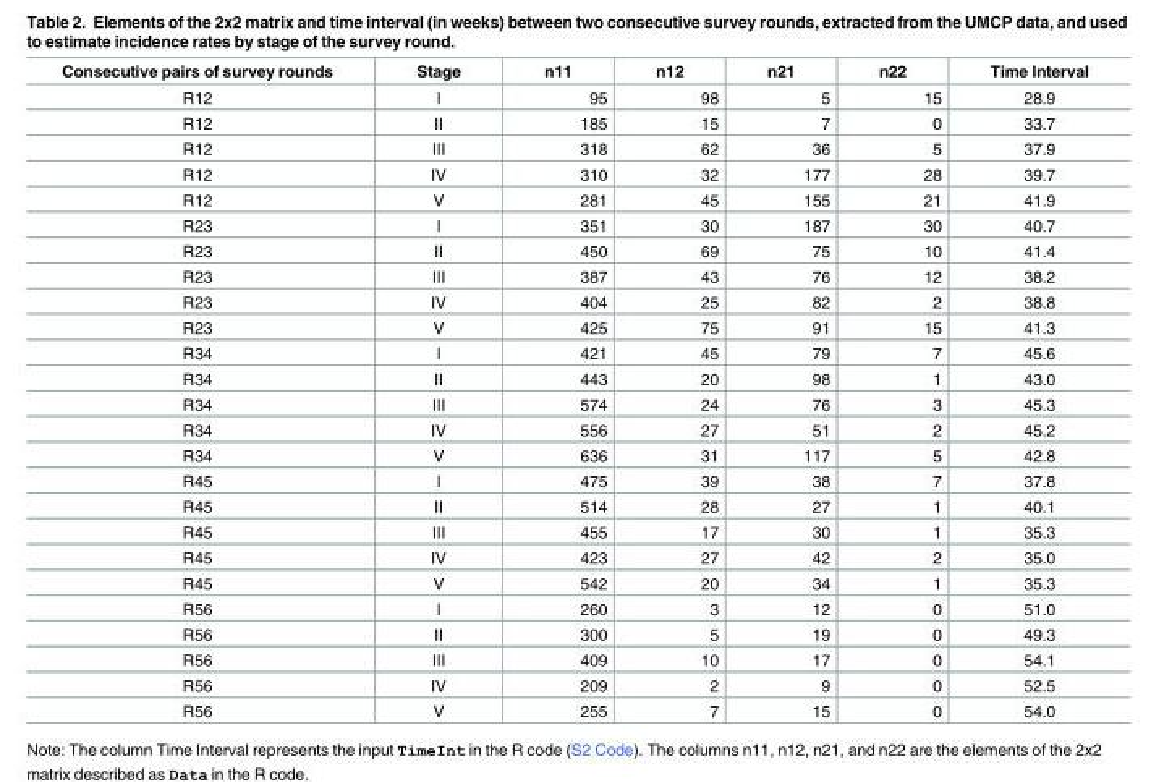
<table><thead><tr><td>Consecutive pairs of survey rounds</td><td>Stage</td><td>n11</td><td>n12</td><td>n21</td><td>n22</td><td>Time Interval</td></tr></thead><tbody><tr><td>R12</td><td>I</td><td>95</td><td>98</td><td>5</td><td>15</td><td>28.9</td></tr><tr><td>R12</td><td>II</td><td>185</td><td>15</td><td>7</td><td>0</td><td>33.7</td></tr><tr><td>R12</td><td>III</td><td>318</td><td>62</td><td>36</td><td>5</td><td>37.9</td></tr><tr><td>R12</td><td>IV</td><td>310</td><td>32</td><td>177</td><td>28</td><td>39.7</td></tr><tr><td>R12</td><td>V</td><td>281</td><td>45</td><td>155</td><td>21</td><td>41.9</td></tr><tr><td>R23</td><td>I</td><td>351</td><td>30</td><td>187</td><td>30</td><td>40.7</td></tr><tr><td>R23</td><td>II</td><td>450</td><td>69</td><td>75</td><td>10</td><td>41.4</td></tr><tr><td>R23</td><td>III</td><td>387</td><td>43</td><td>76</td><td>12</td><td>38.2</td></tr><tr><td>R23</td><td>IV</td><td>404</td><td>25</td><td>82</td><td>2</td><td>38.8</td></tr><tr><td>R23</td><td>V</td><td>425</td><td>75</td><td>91</td><td>15</td><td>41.3</td></tr><tr><td>R34</td><td>I</td><td>421</td><td>45</td><td>79</td><td>7</td><td>45.6</td></tr><tr><td>R34</td><td>II</td><td>443</td><td>20</td><td>98</td><td>1</td><td>43.0</td></tr><tr><td>R34</td><td>III</td><td>574</td><td>24</td><td>76</td><td>3</td><td>45.3</td></tr><tr><td>R34</td><td>IV</td><td>556</td><td>27</td><td>51</td><td>2</td><td>45.2</td></tr><tr><td>R34</td><td>V</td><td>636</td><td>31</td><td>117</td><td>5</td><td>42.8</td></tr><tr><td>R45</td><td>I</td><td>475</td><td>39</td><td>38</td><td>7</td><td>37.8</td></tr><tr><td>R45</td><td>II</td><td>514</td><td>28</td><td>27</td><td>1</td><td>40.1</td></tr><tr><td>R45</td><td>III</td><td>455</td><td>17</td><td>30</td><td>1</td><td>35.3</td></tr><tr><td>R45</td><td>IV</td><td>423</td><td>27</td><td>42</td><td>2</td><td>35.0</td></tr><tr><td>R45</td><td>V</td><td>542</td><td>20</td><td>34</td><td>1</td><td>35.3</td></tr><tr><td>R56</td><td>I</td><td>260</td><td>3</td><td>12</td><td>0</td><td>51.0</td></tr><tr><td>R56</td><td>II</td><td>300</td><td>5</td><td>19</td><td>0</td><td>49.3</td></tr><tr><td>R56</td><td>III</td><td>409</td><td>10</td><td>17</td><td>0</td><td>54.1</td></tr><tr><td>R56</td><td>IV</td><td>209</td><td>2</td><td>9</td><td>0</td><td>52.5</td></tr><tr><td>R56</td><td>V</td><td>255</td><td>7</td><td>15</td><td>0</td><td>54.0</td></tr></tbody></table>